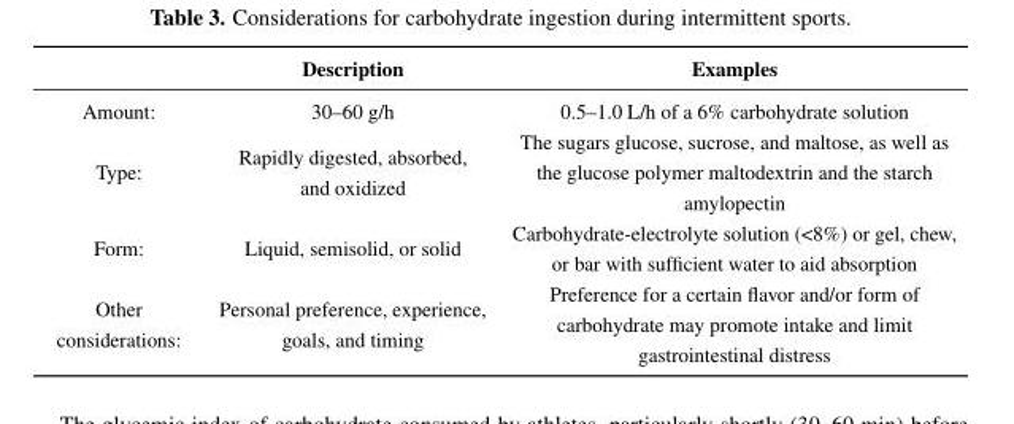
<table><thead><tr><td></td><td>Description</td><td>Examples</td></tr></thead><tbody><tr><td>Amount:</td><td>30–60 g/h</td><td>0.5–1.0 L/h of a 6% carbohydrate solution</td></tr><tr><td>Type:</td><td>Rapidly digested, absorbed, and oxidized</td><td>The sugars glucose, sucrose, and maltose, as well as the glucose polymer maltodextrin and the starch amylopectin</td></tr><tr><td>Form:</td><td>Liquid, semisolid, or solid</td><td>Carbohydrate-electrolyte solution (&lt;8%) or gel, chew, or bar with sufficient water to aid absorption</td></tr><tr><td>Other considerations:</td><td>Personal preference, experience, goals, and timing</td><td>Preference for a certain flavor and/or form of carbohydrate may promote intake and limit gastrointestinal distress</td></tr></tbody></table>